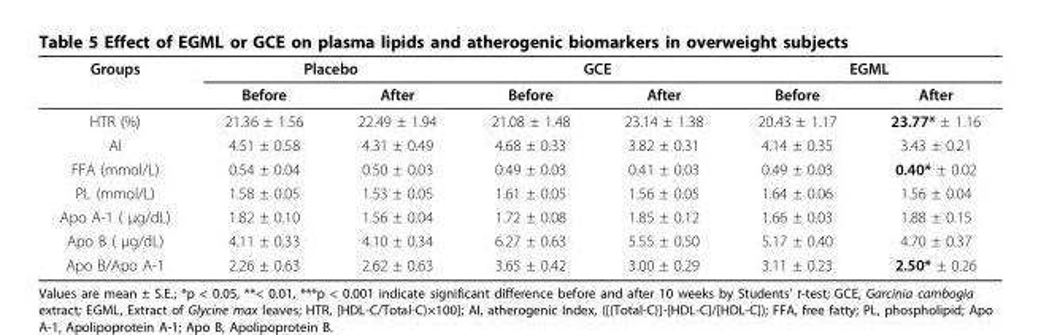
<table><thead><tr><td rowspan="2">Groups</td><td colspan="2">Placebo</td><td colspan="2">GCE</td><td colspan="2">EGML</td></tr><tr><td>Before</td><td>After</td><td>Before</td><td>After</td><td>Before</td><td>After</td></tr></thead><tbody><tr><td>HTR (%)</td><td>21.36 ± 1.56</td><td>22.49 ± 1.94</td><td>21.08 ± 1.48</td><td>23.14 ± 1.38</td><td>20.43 ± 1.17</td><td>23.77* ± 1.16</td></tr><tr><td>AI</td><td>4.51 ± 0.58</td><td>4.31 ± 0.49</td><td>4.68 ± 0.33</td><td>3.82 ± 0.31</td><td>4.14 ± 0.35</td><td>3.43 ± 0.21</td></tr><tr><td>FFA (mmol/L)</td><td>0.54 ± 0.04</td><td>0.50 ± 0.03</td><td>0.49 ± 0.03</td><td>0.41 ± 0.03</td><td>0.49 ± 0.03</td><td>0.40* ± 0.02</td></tr><tr><td>PL (mmol/L)</td><td>1.58 ± 0.05</td><td>1.53 ± 0.05</td><td>1.61 ± 0.05</td><td>1.56 ± 0.05</td><td>1.64 ± 0.06</td><td>1.56 ± 0.04</td></tr><tr><td>Apo A-1 ( μg/dL)</td><td>1.82 ± 0.10</td><td>1.56 ± 0.04</td><td>1.72 ± 0.08</td><td>1.85 ± 0.12</td><td>1.66 ± 0.03</td><td>1.88 ± 0.15</td></tr><tr><td>Apo B ( μg/dL)</td><td>4.11 ± 0.33</td><td>4.10 ± 0.34</td><td>6.27 ± 0.63</td><td>5.55 ± 0.50</td><td>5.17 ± 0.40</td><td>4.70 ± 0.37</td></tr><tr><td>Apo B/Apo A-1</td><td>2.26 ± 0.63</td><td>2.62 ± 0.63</td><td>3.65 ± 0.42</td><td>3.00 ± 0.29</td><td>3.11 ± 0.23</td><td>2.50* ± 0.26</td></tr></tbody></table>